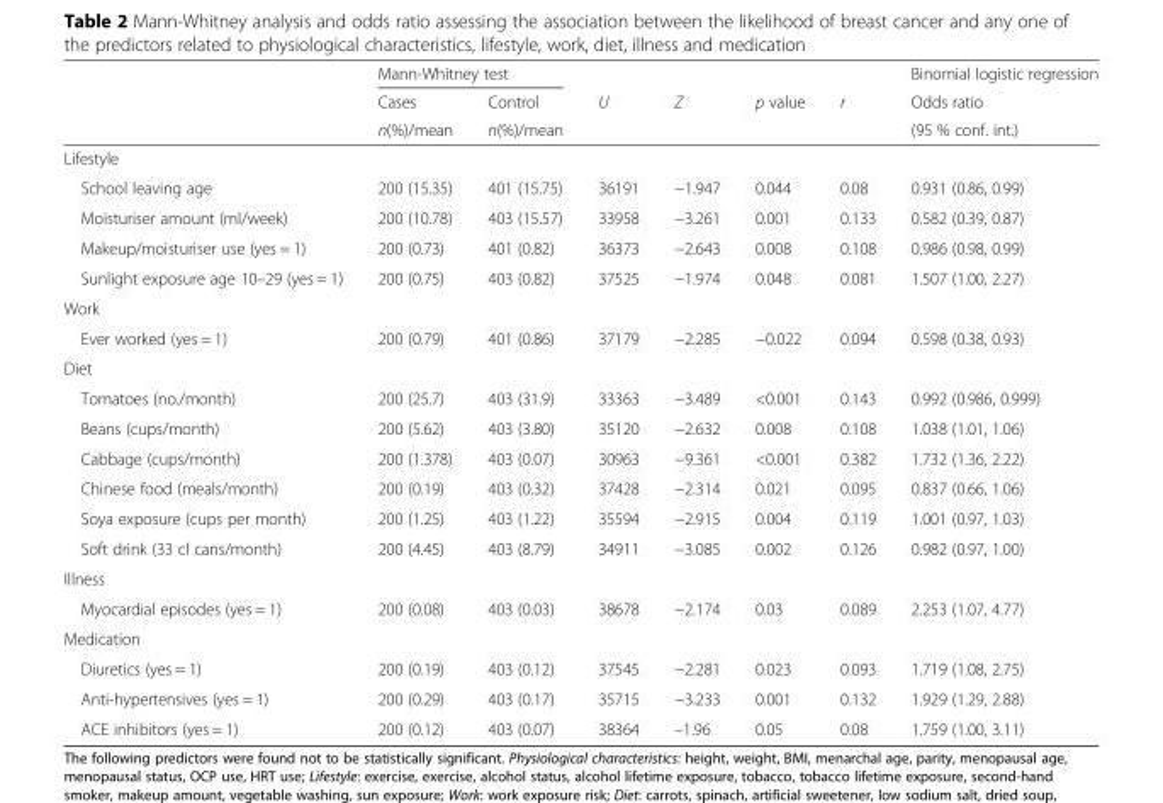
<table><thead><tr><td rowspan="3"></td><td colspan="2">Mann-Whitney test</td><td rowspan="3">U</td><td rowspan="3">Z</td><td rowspan="3">p value</td><td rowspan="3">r</td><td rowspan="3">Binomial logistic regression Odds ratio (95 % conf. int.)</td></tr><tr><td rowspan="2">Cases n(%)/mean</td><td rowspan="2">Control n(%)/mean</td></tr><tr></tr></thead><tbody><tr><td colspan="8">Lifestyle</td></tr><tr><td>School leaving age</td><td>200 (15.35)</td><td>401 (15.75)</td><td>36191</td><td>−1.947</td><td>0.044</td><td>0.08</td><td>0.931 (0.86, 0.99)</td></tr><tr><td>Moisturiser amount (ml/week)</td><td>200 (10.78)</td><td>403 (15.57)</td><td>33958</td><td>−3.261</td><td>0.001</td><td>0.133</td><td>0.582 (0.39, 0.87)</td></tr><tr><td>Makeup/moisturiser use (yes = 1)</td><td>200 (0.73)</td><td>401 (0.82)</td><td>36373</td><td>−2.643</td><td>0.008</td><td>0.108</td><td>0.986 (0.98, 0.99)</td></tr><tr><td>Sunlight exposure age 10–29 (yes = 1)</td><td>200 (0.75)</td><td>403 (0.82)</td><td>37525</td><td>−1.974</td><td>0.048</td><td>0.081</td><td>1.507 (1.00, 2.27)</td></tr><tr><td colspan="8">Work</td></tr><tr><td>Ever worked (yes = 1)</td><td>200 (0.79)</td><td>401 (0.86)</td><td>37179</td><td>−2.285</td><td>−0.022</td><td>0.094</td><td>0.598 (0.38, 0.93)</td></tr><tr><td colspan="8">Diet</td></tr><tr><td>Tomatoes (no./month)</td><td>200 (25.7)</td><td>403 (31.9)</td><td>33363</td><td>−3.489</td><td>&lt;0.001</td><td>0.143</td><td>0.992 (0.986, 0.999)</td></tr><tr><td>Beans (cups/month)</td><td>200 (5.62)</td><td>403 (3.80)</td><td>35120</td><td>−2.632</td><td>0.008</td><td>0.108</td><td>1.038 (1.01, 1.06)</td></tr><tr><td>Cabbage (cups/month)</td><td>200 (1.378)</td><td>403 (0.07)</td><td>30963</td><td>−9.361</td><td>&lt;0.001</td><td>0.382</td><td>1.732 (1.36, 2.22)</td></tr><tr><td>Chinese food (meals/month)</td><td>200 (0.19)</td><td>403 (0.32)</td><td>37428</td><td>−2.314</td><td>0.021</td><td>0.095</td><td>0.837 (0.66, 1.06)</td></tr><tr><td>Soya exposure (cups per month)</td><td>200 (1.25)</td><td>403 (1.22)</td><td>35594</td><td>−2.915</td><td>0.004</td><td>0.119</td><td>1.001 (0.97, 1.03)</td></tr><tr><td>Soft drink (33 cl cans/month)</td><td>200 (4.45)</td><td>403 (8.79)</td><td>34911</td><td>−3.085</td><td>0.002</td><td>0.126</td><td>0.982 (0.97, 1.00)</td></tr><tr><td colspan="8">Illness</td></tr><tr><td>Myocardial episodes (yes = 1)</td><td>200 (0.08)</td><td>403 (0.03)</td><td>38678</td><td>−2.174</td><td>0.03</td><td>0.089</td><td>2.253 (1.07, 4.77)</td></tr><tr><td colspan="8">Medication</td></tr><tr><td>Diuretics (yes = 1)</td><td>200 (0.19)</td><td>403 (0.12)</td><td>37545</td><td>−2.281</td><td>0.023</td><td>0.093</td><td>1.719 (1.08, 2.75)</td></tr><tr><td>Anti-hypertensives (yes = 1)</td><td>200 (0.29)</td><td>403 (0.17)</td><td>35715</td><td>−3.233</td><td>0.001</td><td>0.132</td><td>1.929 (1.29, 2.88)</td></tr><tr><td>ACE inhibitors (yes = 1)</td><td>200 (0.12)</td><td>403 (0.07)</td><td>38364</td><td>–1.96</td><td>0.05</td><td>0.08</td><td>1.759 (1.00, 3.11)</td></tr></tbody></table>